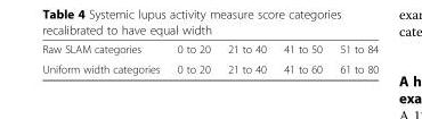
<table><tbody><tr><td>Raw SLAM categories</td><td>0 to 20</td><td>21 to 40</td><td>41 to 50</td><td>51 to 84</td></tr><tr><td>Uniform width categories</td><td>0 to 20</td><td>21 to 40</td><td>41 to 60</td><td>61 to 80</td></tr></tbody></table>